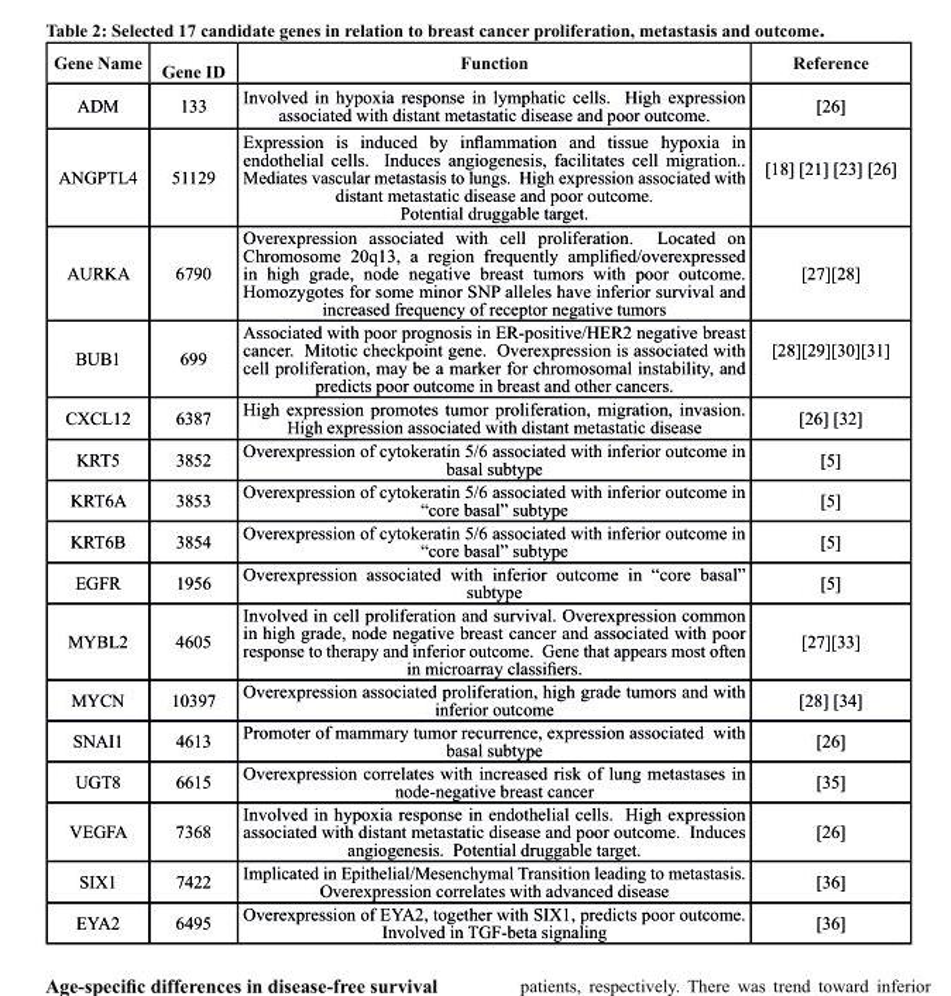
<table><thead><tr><td>Gene Name</td><td>Gene ID</td><td>Function</td><td>Reference</td></tr></thead><tbody><tr><td>ADM</td><td>133</td><td>Involved in hypoxia response in lymphatic cells. High expression associated with distant metastatic disease and poor outcome.</td><td>[26]</td></tr><tr><td>ANGPTL4</td><td>51129</td><td>Expression is induced by inflammation and tissue hypoxia in endothelial cells. Induces angiogenesis, facilitates cell migration.. Mediates vascular metastasis to lungs. High expression associated with distant metastatic disease and poor outcome. Potential druggable target.</td><td>[18] [21] [23] [26]</td></tr><tr><td>AURKA</td><td>6790</td><td>Overexpression associated with cell proliferation. Located on Chromosome 20q13, a region frequently amplified/overexpressed in high grade, node negative breast tumors with poor outcome. Homozygotes for some minor SNP alleles have inferior survival and increased frequency of receptor negative tumors</td><td>[27][28]</td></tr><tr><td>BUB1</td><td>699</td><td>Associated with poor prognosis in ER-positive/HER2 negative breast cancer. Mitotic checkpoint gene. Overexpression is associated with cell proliferation, may be a marker for chromosomal instability, and predicts poor outcome in breast and other cancers.</td><td>[28][29][30][31]</td></tr><tr><td>CXCL12</td><td>6387</td><td>High expression promotes tumor proliferation, migration, invasion. High expression associated with distant metastatic disease</td><td>[26] [32]</td></tr><tr><td>KRT5</td><td>3852</td><td>Overexpression of cytokeratin 5/6 associated with inferior outcome in basal subtype</td><td>[5]</td></tr><tr><td>KRT6A</td><td>3853</td><td>Overexpression of cytokeratin 5/6 associated with inferior outcome in “core basal” subtype</td><td>[5]</td></tr><tr><td>KRT6B</td><td>3854</td><td>Overexpression of cytokeratin 5/6 associated with inferior outcome in “core basal” subtype</td><td>[5]</td></tr><tr><td>EGFR</td><td>1956</td><td>Overexpression associated with inferior outcome in “core basal” subtype</td><td>[5]</td></tr><tr><td>MYBL2</td><td>4605</td><td>Involved in cell proliferation and survival. Overexpression common in high grade, node negative breast cancer and associated with poor response to therapy and inferior outcome. Gene that appears most often in microarray classifiers.</td><td>[27][33]</td></tr><tr><td>MYCN</td><td>10397</td><td>Overexpression associated proliferation, high grade tumors and with inferior outcome</td><td>[28] [34]</td></tr><tr><td>SNAI1</td><td>4613</td><td>Promoter of mammary tumor recurrence, expression associated with basal subtype</td><td>[26]</td></tr><tr><td>UGT8</td><td>6615</td><td>Overexpression correlates with increased risk of lung metastases in node-negative breast cancer</td><td>[35]</td></tr><tr><td>VEGFA</td><td>7368</td><td>Involved in hypoxia response in endothelial cells. High expression associated with distant metastatic disease and poor outcome. Induces angiogenesis. Potential druggable target.</td><td>[26]</td></tr><tr><td>SIX1</td><td>7422</td><td>Implicated in Epithelial/Mesenchymal Transition leading to metastasis. Overexpression correlates with advanced disease</td><td>[36]</td></tr><tr><td>EYA2</td><td>6495</td><td>Overexpression of EYA2, together with SIX1, predicts poor outcome. Involved in TGF-beta signaling</td><td>[36]</td></tr></tbody></table>